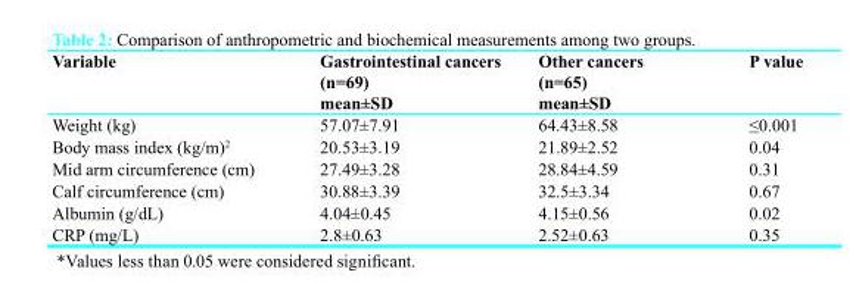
<table><thead><tr><td>Variable</td><td>Gastrointestinal cancers (n=69) mean±SD</td><td>Other cancers (n=65) mean±SD</td><td>P value</td></tr></thead><tbody><tr><td>Weight (kg)</td><td>57.07±7.91</td><td>64.43±8.58</td><td>≤0.001</td></tr><tr><td>Body mass index (kg/m)2</td><td>20.53±3.19</td><td>21.89±2.52</td><td>0.04</td></tr><tr><td>Mid arm circumference (cm)</td><td>27.49±3.28</td><td>28.84±4.59</td><td>0.31</td></tr><tr><td>Calf circumference (cm)</td><td>30.88±3.39</td><td>32.5±3.34</td><td>0.67</td></tr><tr><td>Albumin (g/dL)</td><td>4.04±0.45</td><td>4.15±0.56</td><td>0.02</td></tr><tr><td>CRP (mg/L)</td><td>2.8±0.63</td><td>2.52±0.63</td><td>0.35</td></tr></tbody></table>